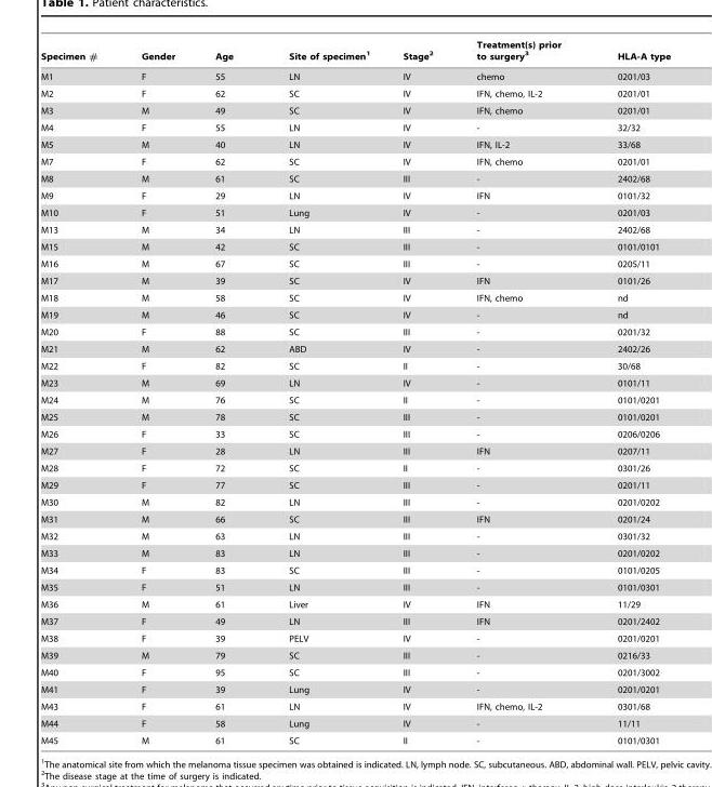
<table><thead><tr><td>Specimen #</td><td>Gender</td><td>Age</td><td>Site of specimen<sup>1</sup></td><td>Stage<sup>2</sup></td><td>Treatment(s) prior to surgery<sup>3</sup></td><td>HLA-A type</td></tr></thead><tbody><tr><td>M1</td><td>F</td><td>55</td><td>LN</td><td>IV</td><td>chemo</td><td>0201/03</td></tr><tr><td>M2</td><td>F</td><td>62</td><td>SC</td><td>IV</td><td>IFN, chemo, IL-2</td><td>0201/01</td></tr><tr><td>M3</td><td>M</td><td>49</td><td>SC</td><td>IV</td><td>IFN, chemo</td><td>0201/01</td></tr><tr><td>M4</td><td>F</td><td>55</td><td>LN</td><td>IV</td><td>-</td><td>32/32</td></tr><tr><td>M5</td><td>M</td><td>40</td><td>LN</td><td>IV</td><td>IFN, IL-2</td><td>33/68</td></tr><tr><td>M7</td><td>F</td><td>62</td><td>SC</td><td>IV</td><td>IFN, chemo</td><td>0201/01</td></tr><tr><td>M8</td><td>M</td><td>61</td><td>SC</td><td>III</td><td>-</td><td>2402/68</td></tr><tr><td>M9</td><td>F</td><td>29</td><td>LN</td><td>IV</td><td>IFN</td><td>0101/32</td></tr><tr><td>M10</td><td>F</td><td>51</td><td>Lung</td><td>IV</td><td>-</td><td>0201/03</td></tr><tr><td>M13</td><td>M</td><td>34</td><td>LN</td><td>III</td><td>-</td><td>2402/68</td></tr><tr><td>M15</td><td>M</td><td>42</td><td>SC</td><td>III</td><td>-</td><td>0101/0101</td></tr><tr><td>M16</td><td>M</td><td>67</td><td>SC</td><td>III</td><td>-</td><td>0205/11</td></tr><tr><td>M17</td><td>M</td><td>39</td><td>SC</td><td>IV</td><td>IFN</td><td>0101/26</td></tr><tr><td>M18</td><td>M</td><td>58</td><td>SC</td><td>IV</td><td>IFN, chemo</td><td>nd</td></tr><tr><td>M19</td><td>M</td><td>46</td><td>SC</td><td>IV</td><td>-</td><td>nd</td></tr><tr><td>M20</td><td>F</td><td>88</td><td>SC</td><td>III</td><td>-</td><td>0201/32</td></tr><tr><td>M21</td><td>M</td><td>62</td><td>ABD</td><td>IV</td><td>-</td><td>2402/26</td></tr><tr><td>M22</td><td>F</td><td>82</td><td>SC</td><td>II</td><td>-</td><td>30/68</td></tr><tr><td>M23</td><td>M</td><td>69</td><td>LN</td><td>IV</td><td>-</td><td>0101/11</td></tr><tr><td>M24</td><td>M</td><td>76</td><td>SC</td><td>II</td><td>-</td><td>0101/0201</td></tr><tr><td>M25</td><td>M</td><td>78</td><td>SC</td><td>III</td><td>-</td><td>0101/0201</td></tr><tr><td>M26</td><td>F</td><td>33</td><td>SC</td><td>III</td><td>-</td><td>0206/0206</td></tr><tr><td>M27</td><td>F</td><td>28</td><td>LN</td><td>III</td><td>IFN</td><td>0207/11</td></tr><tr><td>M28</td><td>F</td><td>72</td><td>SC</td><td>II</td><td>-</td><td>0301/26</td></tr><tr><td>M29</td><td>F</td><td>77</td><td>SC</td><td>III</td><td>-</td><td>0201/11</td></tr><tr><td>M30</td><td>M</td><td>82</td><td>LN</td><td>III</td><td>-</td><td>0201/0202</td></tr><tr><td>M31</td><td>M</td><td>66</td><td>SC</td><td>III</td><td>IFN</td><td>0201/24</td></tr><tr><td>M32</td><td>M</td><td>63</td><td>LN</td><td>III</td><td>-</td><td>0301/32</td></tr><tr><td>M33</td><td>M</td><td>83</td><td>LN</td><td>III</td><td>-</td><td>0201/0202</td></tr><tr><td>M34</td><td>F</td><td>83</td><td>SC</td><td>III</td><td>-</td><td>0101/0205</td></tr><tr><td>M35</td><td>F</td><td>51</td><td>LN</td><td>III</td><td>-</td><td>0101/0301</td></tr><tr><td>M36</td><td>M</td><td>61</td><td>Liver</td><td>IV</td><td>IFN</td><td>11/29</td></tr><tr><td>M37</td><td>F</td><td>49</td><td>LN</td><td>III</td><td>IFN</td><td>0201/2402</td></tr><tr><td>M38</td><td>F</td><td>39</td><td>PELV</td><td>IV</td><td>-</td><td>0201/0201</td></tr><tr><td>M39</td><td>M</td><td>79</td><td>SC</td><td>III</td><td>-</td><td>0216/33</td></tr><tr><td>M40</td><td>F</td><td>95</td><td>SC</td><td>III</td><td>-</td><td>0201/3002</td></tr><tr><td>M41</td><td>F</td><td>39</td><td>Lung</td><td>IV</td><td>-</td><td>0201/0201</td></tr><tr><td>M43</td><td>F</td><td>61</td><td>LN</td><td>IV</td><td>IFN, chemo, IL-2</td><td>0301/68</td></tr><tr><td>M44</td><td>F</td><td>58</td><td>Lung</td><td>IV</td><td>-</td><td>11/11</td></tr><tr><td>M45</td><td>M</td><td>61</td><td>SC</td><td>II</td><td>-</td><td>0101/0301</td></tr></tbody></table>